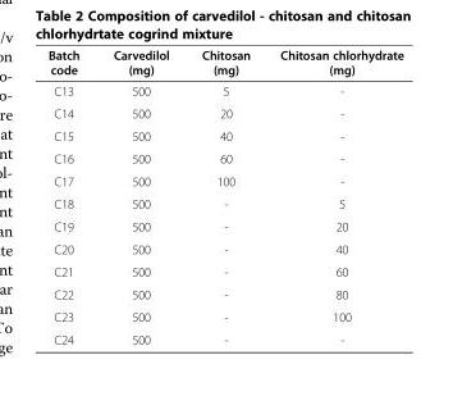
<table><thead><tr><td>Batch code</td><td>Carvedilol (mg)</td><td>Chitosan (mg)</td><td>Chitosan chlorhydrate (mg)</td></tr></thead><tbody><tr><td>C13</td><td>500</td><td>5</td><td>-</td></tr><tr><td>C14</td><td>500</td><td>20</td><td>-</td></tr><tr><td>C15</td><td>500</td><td>40</td><td>-</td></tr><tr><td>C16</td><td>500</td><td>60</td><td>-</td></tr><tr><td>C17</td><td>500</td><td>100</td><td>-</td></tr><tr><td>C18</td><td>500</td><td>-</td><td>5</td></tr><tr><td>C19</td><td>500</td><td>-</td><td>20</td></tr><tr><td>C20</td><td>500</td><td>-</td><td>40</td></tr><tr><td>C21</td><td>500</td><td>-</td><td>60</td></tr><tr><td>C22</td><td>500</td><td>-</td><td>80</td></tr><tr><td>C23</td><td>500</td><td>-</td><td>100</td></tr><tr><td>C24</td><td>500</td><td>-</td><td>-</td></tr></tbody></table>